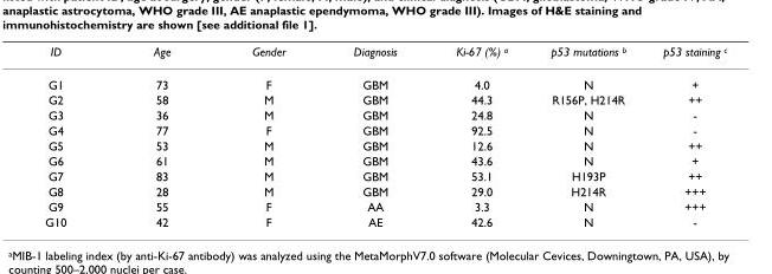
<table><thead><tr><td>ID</td><td>Age</td><td>Gender</td><td>Diagnosis</td><td>Ki-67 (%) <sup>a</sup></td><td>p53 mutations <sup>b</sup></td><td>p53 staining <sup>c</sup></td></tr></thead><tbody><tr><td>G1</td><td>73</td><td>F</td><td>GBM</td><td>4.0</td><td>N</td><td>+</td></tr><tr><td>G2</td><td>58</td><td>M</td><td>GBM</td><td>44.3</td><td>R156P, H214R</td><td>++</td></tr><tr><td>G3</td><td>36</td><td>M</td><td>GBM</td><td>24.8</td><td>N</td><td>-</td></tr><tr><td>G4</td><td>77</td><td>F</td><td>GBM</td><td>92.5</td><td>N</td><td>-</td></tr><tr><td>G5</td><td>53</td><td>M</td><td>GBM</td><td>12.6</td><td>N</td><td>++</td></tr><tr><td>G6</td><td>61</td><td>M</td><td>GBM</td><td>43.6</td><td>N</td><td>+</td></tr><tr><td>G7</td><td>83</td><td>M</td><td>GBM</td><td>53.1</td><td>H193P</td><td>++</td></tr><tr><td>G8</td><td>28</td><td>M</td><td>GBM</td><td>29.0</td><td>H214R</td><td>+++</td></tr><tr><td>G9</td><td>55</td><td>F</td><td>AA</td><td>3.3</td><td>N</td><td>+++</td></tr><tr><td>G10</td><td>42</td><td>F</td><td>AE</td><td>42.6</td><td>N</td><td>-</td></tr></tbody></table>